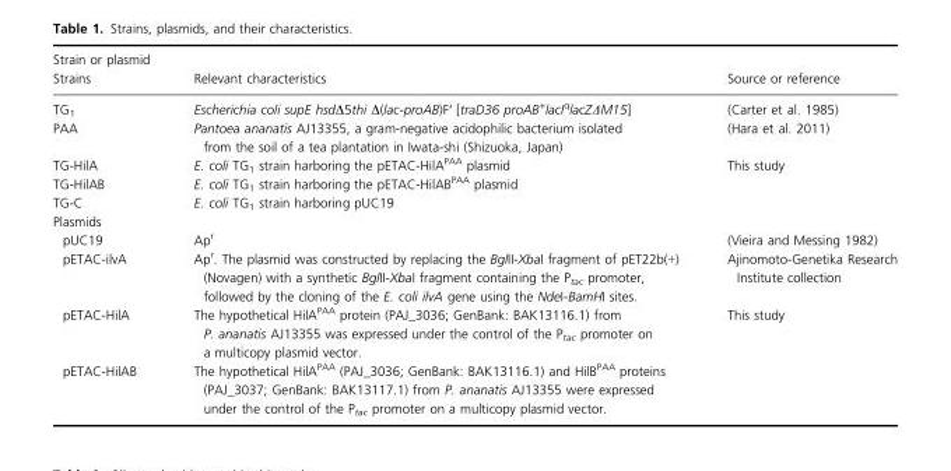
<table><thead><tr><td>Strain or plasmid Strains</td><td>Relevant characteristics</td><td>Source or reference</td></tr></thead><tbody><tr><td>TG<sub>1</sub></td><td>Escherichia coli supE hsdΔ5thi Δ(lac-proAB)F′ [traD36 proAB<sup>+</sup>lacI<sup>q</sup>lacZΔM15]</td><td>(Carter et al. 1985)</td></tr><tr><td>PAA</td><td>Pantoea ananatis AJ13355, a gram-negative acidophilic bacterium isolated from the soil of a tea plantation in Iwata-shi (Shizuoka, Japan)</td><td>(Hara et al. 2011)</td></tr><tr><td>TG-HilA</td><td>E. coli TG<sub>1</sub> strain harboring the pETAC-HilA<sup>PAA</sup> plasmid</td><td rowspan="3">This study</td></tr><tr><td>TG-HilAB</td><td>E. coli TG<sub>1</sub> strain harboring the pETAC-HilAB<sup>PAA</sup> plasmid</td></tr><tr><td>TG-C</td><td>E. coli TG<sub>1</sub> strain harboring pUC19</td></tr><tr><td colspan="3">Plasmids</td></tr><tr><td>pUC19</td><td>Ap<sup>r</sup></td><td>(Vieira and Messing 1982)</td></tr><tr><td>pETAC-ilvA</td><td>Ap<sup>r</sup>. The plasmid was constructed by replacing the BglII-XbaI fragment of pET22b(+) (Novagen) with a synthetic BglII-XbaI fragment containing the P<sub>tac</sub> promoter, followed by the cloning of the E. coli ilvA gene using the NdeI-BamHI sites.</td><td>Ajinomoto-Genetika Research Institute collection</td></tr><tr><td>pETAC-HilA</td><td>The hypothetical HilA<sup>PAA</sup> protein (PAJ_3036; GenBank: BAK13116.1) from P. ananatis AJ13355 was expressed under the control of the P<sub>tac</sub> promoter on a multicopy plasmid vector.</td><td rowspan="2">This study</td></tr><tr><td>pETAC-HilAB</td><td>The hypothetical HilA<sup>PAA</sup> (PAJ_3036; GenBank: BAK13116.1) and HilB<sup>PAA</sup> proteins (PAJ_3037; GenBank: BAK13117.1) from P. ananatis AJ13355 were expressed under the control of the P<sub>tac</sub> promoter on a multicopy plasmid vector.</td></tr></tbody></table>